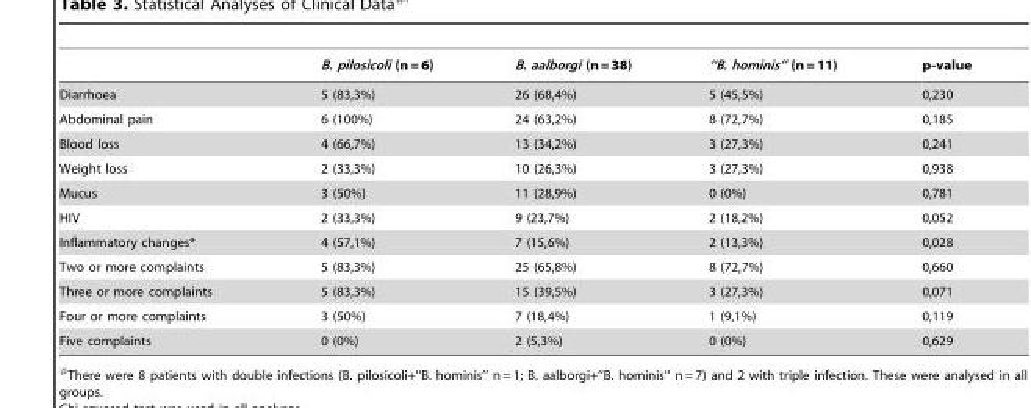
<table><thead><tr><td></td><td>B. pilosicoli (n = 6)</td><td>B. aalborgi (n = 38)</td><td>‘‘B. hominis’’ (n = 11)</td><td>p-value</td></tr></thead><tbody><tr><td>Diarrhoea</td><td>5 (83,3%)</td><td>26 (68,4%)</td><td>5 (45,5%)</td><td>0,230</td></tr><tr><td>Abdominal pain</td><td>6 (100%)</td><td>24 (63,2%)</td><td>8 (72,7%)</td><td>0,185</td></tr><tr><td>Blood loss</td><td>4 (66,7%)</td><td>13 (34,2%)</td><td>3 (27,3%)</td><td>0,241</td></tr><tr><td>Weight loss</td><td>2 (33,3%)</td><td>10 (26,3%)</td><td>3 (27,3%)</td><td>0,938</td></tr><tr><td>Mucus</td><td>3 (50%)</td><td>11 (28,9%)</td><td>0 (0%)</td><td>0,781</td></tr><tr><td>HIV</td><td>2 (33,3%)</td><td>9 (23,7%)</td><td>2 (18,2%)</td><td>0,052</td></tr><tr><td>Inflammatory changes*</td><td>4 (57,1%)</td><td>7 (15,6%)</td><td>2 (13,3%)</td><td>0,028</td></tr><tr><td>Two or more complaints</td><td>5 (83,3%)</td><td>25 (65,8%)</td><td>8 (72,7%)</td><td>0,660</td></tr><tr><td>Three or more complaints</td><td>5 (83,3%)</td><td>15 (39,5%)</td><td>3 (27,3%)</td><td>0,071</td></tr><tr><td>Four or more complaints</td><td>3 (50%)</td><td>7 (18,4%)</td><td>1 (9,1%)</td><td>0,119</td></tr><tr><td>Five complaints</td><td>0 (0%)</td><td>2 (5,3%)</td><td>0 (0%)</td><td>0,629</td></tr></tbody></table>